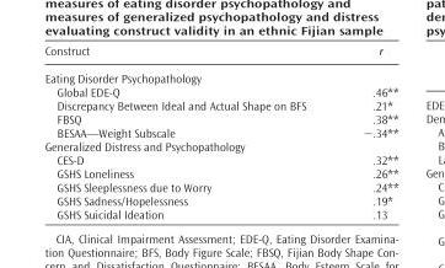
<table><thead><tr><td>Construct</td><td>r</td></tr></thead><tbody><tr><td colspan="2">Eating Disorder Psychopathology</td></tr><tr><td>Global EDE-Q</td><td>.46**</td></tr><tr><td>Discrepancy Between Ideal and Actual Shape on BFS</td><td>.21*</td></tr><tr><td>FBSQ</td><td>.38**</td></tr><tr><td>BESAA—Weight Subscale</td><td>2.34**</td></tr><tr><td colspan="2">Generalized Distress and Psychopathology</td></tr><tr><td>CES-D</td><td>.32**</td></tr><tr><td>GSHS Loneliness</td><td>.26**</td></tr><tr><td>GSHS Sleeplessness due to Worry</td><td>.24**</td></tr><tr><td>GSHS Sadness/Hopelessness</td><td>.19*</td></tr><tr><td>GSHS Suicidal Ideation</td><td>.13</td></tr></tbody></table>